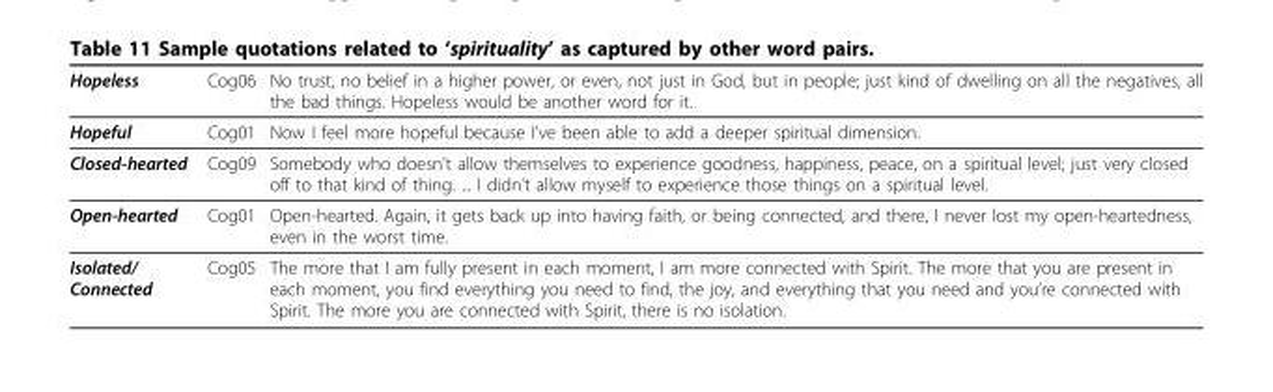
<table><thead><tr><td>Hopeless</td><td>Cog06</td><td>No trust, no belief in a higher power, or even, not just in God, but in people; just kind of dwelling on all the negatives, all the bad things. Hopeless would be another word for it.</td></tr></thead><tbody><tr><td>Hopeful</td><td>Cog01</td><td>Now I feel more hopeful because I’ve been able to add a deeper spiritual dimension.</td></tr><tr><td>Closed-hearted</td><td>Cog09</td><td>Somebody who doesn’t allow themselves to experience goodness, happiness, peace, on a spiritual level; just very closed off to that kind of thing. ... I didn’t allow myself to experience those things on a spiritual level.</td></tr><tr><td>Open-hearted</td><td>Cog01</td><td>Open-hearted. Again, it gets back up into having faith, or being connected, and there, I never lost my open-heartedness, even in the worst time.</td></tr><tr><td>Isolated/ Connected</td><td>Cog05</td><td>The more that I am fully present in each moment, I am more connected with Spirit. The more that you are present in each moment, you find everything you need to find, the joy, and everything that you need and you’re connected with Spirit. The more you are connected with Spirit, there is no isolation.</td></tr></tbody></table>